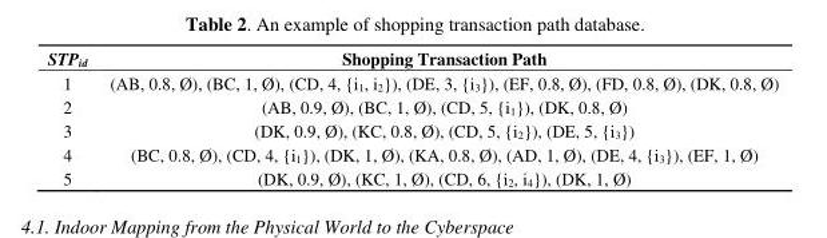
<table><thead><tr><td>STP<sub>id</sub></td><td>Shopping Transaction Path</td></tr></thead><tbody><tr><td>1</td><td>(AB, 0.8, Ø), (BC, 1, Ø), (CD, 4, {i<sub>1</sub>, i<sub>2</sub>}), (DE, 3, {i<sub>3</sub>}), (EF, 0.8, Ø), (FD, 0.8, Ø), (DK, 0.8, Ø)</td></tr><tr><td>2</td><td>(AB, 0.9, Ø), (BC, 1, Ø), (CD, 5, {i<sub>1</sub>}), (DK, 0.8, Ø)</td></tr><tr><td>3</td><td>(DK, 0.9, Ø), (KC, 0.8, Ø), (CD, 5, {i<sub>2</sub>}), (DE, 5, {i<sub>3</sub>})</td></tr><tr><td>4</td><td>(BC, 0.8, Ø), (CD, 4, {i<sub>1</sub>}), (DK, 1, Ø), (KA, 0.8, Ø), (AD, 1, Ø), (DE, 4, {i<sub>3</sub>}), (EF, 1, Ø)</td></tr><tr><td>5</td><td>(DK, 0.9, Ø), (KC, 1, Ø), (CD, 6, {i<sub>2</sub>, i<sub>4</sub>}), (DK, 1, Ø)</td></tr></tbody></table>